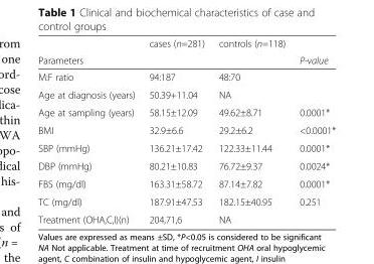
<table><thead><tr><td rowspan="2">Parameters</td><td rowspan="2">cases (n=281)</td><td rowspan="2">controls (n=118)</td><td rowspan="2">P-value</td></tr><tr></tr></thead><tbody><tr><td>M:F ratio</td><td>94:187</td><td>48:70</td><td></td></tr><tr><td>Age at diagnosis (years)</td><td>50.39+11.04</td><td>NA</td><td></td></tr><tr><td>Age at sampling (years)</td><td>58.15±12.09</td><td>49.62±8.71</td><td>0.0001*</td></tr><tr><td>BMI</td><td>32.9±6.6</td><td>29.2±6.2</td><td>&lt;0.0001*</td></tr><tr><td>SBP (mmHg)</td><td>136.21±17.42</td><td>122.33±11.44</td><td>0.0001*</td></tr><tr><td>DBP (mmHg)</td><td>80.21±10.83</td><td>76.72±9.37</td><td>0.0024*</td></tr><tr><td>FBS (mg/dl)</td><td>163.31±58.72</td><td>87.14±7.82</td><td>0.0001*</td></tr><tr><td>TC (mg/dl)</td><td>187.91±47.53</td><td>182.15±40.95</td><td>0.251</td></tr><tr><td>Treatment (OHA,C,I)(n)</td><td>204,71,6</td><td>NA</td><td></td></tr></tbody></table>